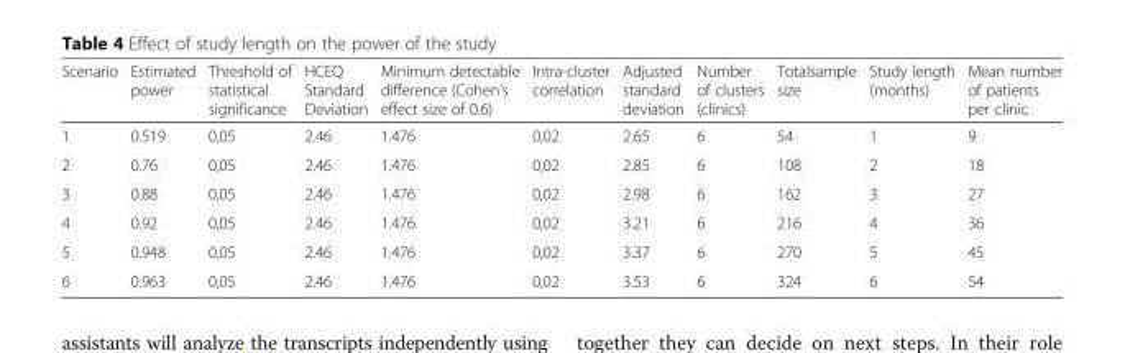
<table><thead><tr><td>Scenario</td><td>Estimated power</td><td>Threshold of statistical significance</td><td>HCEQ Standard Deviation</td><td>Minimum detectable difference (Cohen’s effect size of 0.6)</td><td>Intra-cluster correlation</td><td>Adjusted standard deviation</td><td>Number of clusters (clinics)</td><td>Totalsample size</td><td>Study length (months)</td><td>Mean number of patients per clinic</td></tr></thead><tbody><tr><td>1</td><td>0.519</td><td>0,05</td><td>2.46</td><td>1.476</td><td>0,02</td><td>2.65</td><td>6</td><td>54</td><td>1</td><td>9</td></tr><tr><td>2</td><td>0.76</td><td>0,05</td><td>2.46</td><td>1.476</td><td>0,02</td><td>2.85</td><td>6</td><td>108</td><td>2</td><td>18</td></tr><tr><td>3</td><td>0.88</td><td>0,05</td><td>2.46</td><td>1.476</td><td>0,02</td><td>2.98</td><td>6</td><td>162</td><td>3</td><td>27</td></tr><tr><td>4</td><td>0.92</td><td>0,05</td><td>2.46</td><td>1.476</td><td>0,02</td><td>3.21</td><td>6</td><td>216</td><td>4</td><td>36</td></tr><tr><td>5</td><td>0.948</td><td>0,05</td><td>2.46</td><td>1.476</td><td>0,02</td><td>3.37</td><td>6</td><td>270</td><td>5</td><td>45</td></tr><tr><td>6</td><td>0.963</td><td>0,05</td><td>2.46</td><td>1.476</td><td>0,02</td><td>3.53</td><td>6</td><td>324</td><td>6</td><td>54</td></tr></tbody></table>